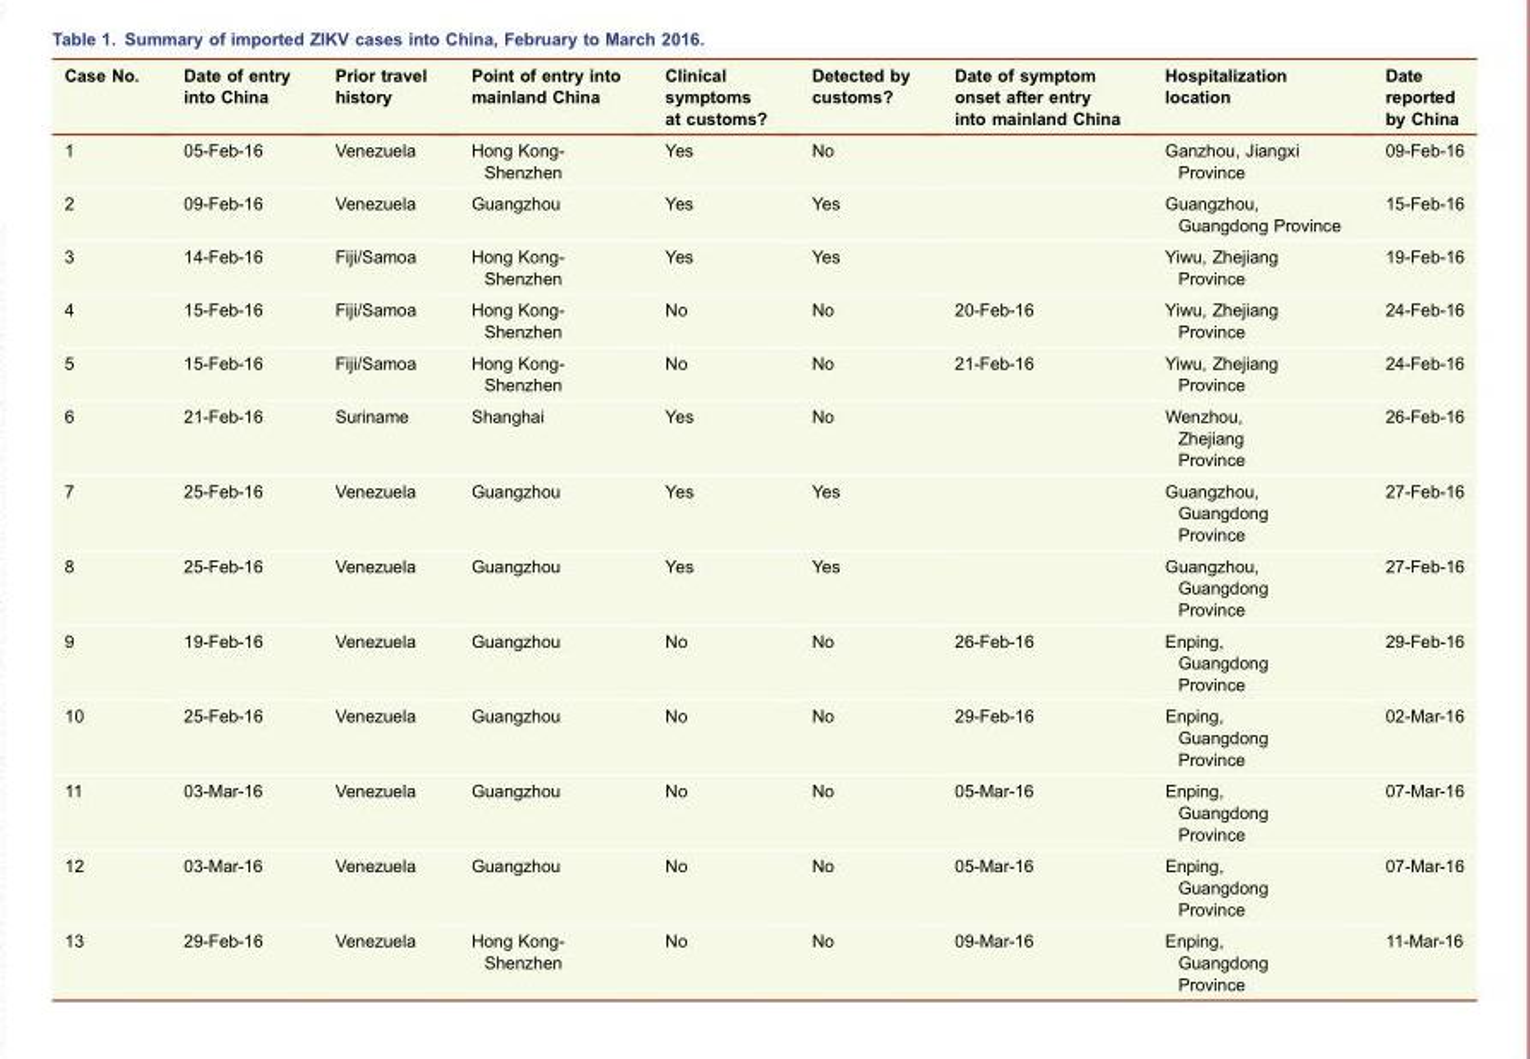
<table><thead><tr><td>Case No.</td><td>Date of entry into China</td><td>Prior travel history</td><td>Point of entry into mainland China</td><td>Clinical symptoms at customs?</td><td>Detected by customs?</td><td>Date of symptom onset after entry into mainland China</td><td>Hospitalization location</td><td>Date reported by China</td></tr></thead><tbody><tr><td>1</td><td>05-Feb-16</td><td>Venezuela</td><td>Hong Kong- Shenzhen</td><td>Yes</td><td>No</td><td></td><td>Ganzhou, Jiangxi Province</td><td>09-Feb-16</td></tr><tr><td>2</td><td>09-Feb-16</td><td>Venezuela</td><td>Guangzhou</td><td>Yes</td><td>Yes</td><td></td><td>Guangzhou, Guangdong Province</td><td>15-Feb-16</td></tr><tr><td>3</td><td>14-Feb-16</td><td>Fiji/Samoa</td><td>Hong Kong- Shenzhen</td><td>Yes</td><td>Yes</td><td></td><td>Yiwu, Zhejiang Province</td><td>19-Feb-16</td></tr><tr><td>4</td><td>15-Feb-16</td><td>Fiji/Samoa</td><td>Hong Kong- Shenzhen</td><td>No</td><td>No</td><td>20-Feb-16</td><td>Yiwu, Zhejiang Province</td><td>24-Feb-16</td></tr><tr><td>5</td><td>15-Feb-16</td><td>Fiji/Samoa</td><td>Hong Kong- Shenzhen</td><td>No</td><td>No</td><td>21-Feb-16</td><td>Yiwu, Zhejiang Province</td><td>24-Feb-16</td></tr><tr><td>6</td><td>21-Feb-16</td><td>Suriname</td><td>Shanghai</td><td>Yes</td><td>No</td><td></td><td>Wenzhou, Zhejiang Province</td><td>26-Feb-16</td></tr><tr><td>7</td><td>25-Feb-16</td><td>Venezuela</td><td>Guangzhou</td><td>Yes</td><td>Yes</td><td></td><td>Guangzhou, Guangdong Province</td><td>27-Feb-16</td></tr><tr><td>8</td><td>25-Feb-16</td><td>Venezuela</td><td>Guangzhou</td><td>Yes</td><td>Yes</td><td></td><td>Guangzhou, Guangdong Province</td><td>27-Feb-16</td></tr><tr><td>9</td><td>19-Feb-16</td><td>Venezuela</td><td>Guangzhou</td><td>No</td><td>No</td><td>26-Feb-16</td><td>Enping, Guangdong Province</td><td>29-Feb-16</td></tr><tr><td>10</td><td>25-Feb-16</td><td>Venezuela</td><td>Guangzhou</td><td>No</td><td>No</td><td>29-Feb-16</td><td>Enping, Guangdong Province</td><td>02-Mar-16</td></tr><tr><td>11</td><td>03-Mar-16</td><td>Venezuela</td><td>Guangzhou</td><td>No</td><td>No</td><td>05-Mar-16</td><td>Enping, Guangdong Province</td><td>07-Mar-16</td></tr><tr><td>12</td><td>03-Mar-16</td><td>Venezuela</td><td>Guangzhou</td><td>No</td><td>No</td><td>05-Mar-16</td><td>Enping, Guangdong Province</td><td>07-Mar-16</td></tr><tr><td>13</td><td>29-Feb-16</td><td>Venezuela</td><td>Hong Kong- Shenzhen</td><td>No</td><td>No</td><td>09-Mar-16</td><td>Enping, Guangdong Province</td><td>11-Mar-16</td></tr></tbody></table>